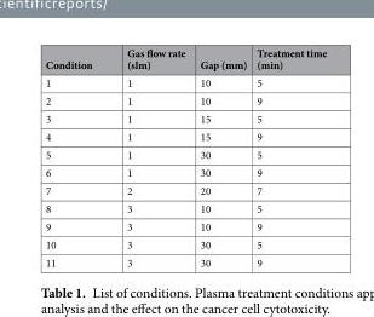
<table><thead><tr><td>Condition</td><td>Gas flow rate (slm)</td><td>Gap (mm)</td><td>Treatment time (min)</td></tr></thead><tbody><tr><td>1</td><td>1</td><td>10</td><td>5</td></tr><tr><td>2</td><td>1</td><td>10</td><td>9</td></tr><tr><td>3</td><td>1</td><td>15</td><td>5</td></tr><tr><td>4</td><td>1</td><td>15</td><td>9</td></tr><tr><td>5</td><td>1</td><td>30</td><td>5</td></tr><tr><td>6</td><td>1</td><td>30</td><td>9</td></tr><tr><td>7</td><td>2</td><td>20</td><td>7</td></tr><tr><td>8</td><td>3</td><td>10</td><td>5</td></tr><tr><td>9</td><td>3</td><td>10</td><td>9</td></tr><tr><td>10</td><td>3</td><td>30</td><td>5</td></tr><tr><td>11</td><td>3</td><td>30</td><td>9</td></tr></tbody></table>